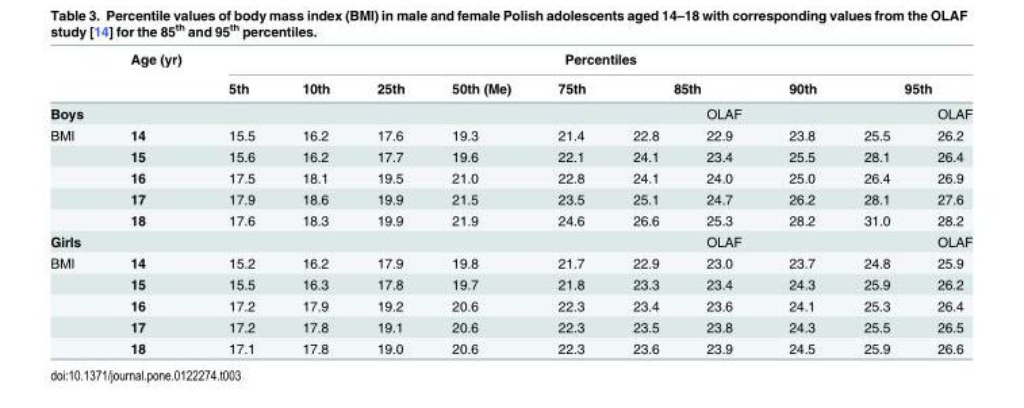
<table><thead><tr><td rowspan="3">Boys</td><td rowspan="3">Age (yr)</td><td colspan="10">Percentiles</td></tr><tr><td rowspan="2">5th</td><td rowspan="2">10th</td><td rowspan="2">25th</td><td rowspan="2">50th (Me)</td><td rowspan="2">75th</td><td colspan="2">85th</td><td rowspan="2">90th</td><td colspan="2">95th</td></tr><tr><td></td><td>OLAF</td><td></td><td>OLAF</td></tr></thead><tbody><tr><td rowspan="5">BMI</td><td>14</td><td>15.5</td><td>16.2</td><td>17.6</td><td>19.3</td><td>21.4</td><td>22.8</td><td>22.9</td><td>23.8</td><td>25.5</td><td>26.2</td></tr><tr><td>15</td><td>15.6</td><td>16.2</td><td>17.7</td><td>19.6</td><td>22.1</td><td>24.1</td><td>23.4</td><td>25.5</td><td>28.1</td><td>26.4</td></tr><tr><td>16</td><td>17.5</td><td>18.1</td><td>19.5</td><td>21.0</td><td>22.8</td><td>24.1</td><td>24.0</td><td>25.0</td><td>26.4</td><td>26.9</td></tr><tr><td>17</td><td>17.9</td><td>18.6</td><td>19.9</td><td>21.5</td><td>23.5</td><td>25.1</td><td>24.7</td><td>26.2</td><td>28.1</td><td>27.6</td></tr><tr><td>18</td><td>17.6</td><td>18.3</td><td>19.9</td><td>21.9</td><td>24.6</td><td>26.6</td><td>25.3</td><td>28.2</td><td>31.0</td><td>28.2</td></tr><tr><td>Girls</td><td></td><td></td><td></td><td></td><td></td><td></td><td></td><td>OLAF</td><td></td><td></td><td>OLAF</td></tr><tr><td rowspan="5">BMI</td><td>14</td><td>15.2</td><td>16.2</td><td>17.9</td><td>19.8</td><td>21.7</td><td>22.9</td><td>23.0</td><td>23.7</td><td>24.8</td><td>25.9</td></tr><tr><td>15</td><td>15.5</td><td>16.3</td><td>17.8</td><td>19.7</td><td>21.8</td><td>23.3</td><td>23.4</td><td>24.3</td><td>25.9</td><td>26.2</td></tr><tr><td>16</td><td>17.2</td><td>17.9</td><td>19.2</td><td>20.6</td><td>22.3</td><td>23.4</td><td>23.6</td><td>24.1</td><td>25.3</td><td>26.4</td></tr><tr><td>17</td><td>17.2</td><td>17.8</td><td>19.1</td><td>20.6</td><td>22.3</td><td>23.5</td><td>23.8</td><td>24.3</td><td>25.5</td><td>26.5</td></tr><tr><td>18</td><td>17.1</td><td>17.8</td><td>19.0</td><td>20.6</td><td>22.3</td><td>23.6</td><td>23.9</td><td>24.5</td><td>25.9</td><td>26.6</td></tr></tbody></table>